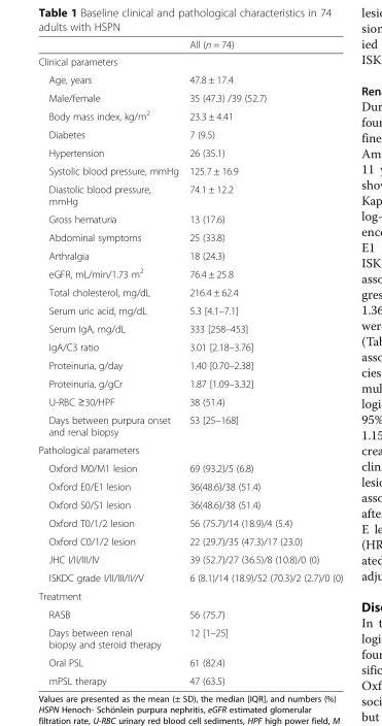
<table><thead><tr><td></td><td>All (n = 74)</td></tr></thead><tbody><tr><td colspan="2">Clinical parameters</td></tr><tr><td>Age, years</td><td>47.8 ± 17.4</td></tr><tr><td>Male/female</td><td>35 (47.3) /39 (52.7)</td></tr><tr><td>Body mass index, kg/m<sup>2</sup></td><td>23.3 ± 4.41</td></tr><tr><td>Diabetes</td><td>7 (9.5)</td></tr><tr><td>Hypertension</td><td>26 (35.1)</td></tr><tr><td>Systolic blood pressure, mmHg</td><td>125.7 ± 16.9</td></tr><tr><td>Diastolic blood pressure, mmHg</td><td>74.1 ± 12.2</td></tr><tr><td>Gross hematuria</td><td>13 (17.6)</td></tr><tr><td>Abdominal symptoms</td><td>25 (33.8)</td></tr><tr><td>Arthralgia</td><td>18 (24.3)</td></tr><tr><td>eGFR, mL/min/1.73 m<sup>2</sup></td><td>76.4 ± 25.8</td></tr><tr><td>Total cholesterol, mg/dL</td><td>216.4 ± 62.4</td></tr><tr><td>Serum uric acid, mg/dL</td><td>5.3 [4.1–7.1]</td></tr><tr><td>Serum IgA, mg/dL</td><td>333 [258–453]</td></tr><tr><td>IgA/C3 ratio</td><td>3.01 [2.18–3.76]</td></tr><tr><td>Proteinuria, g/day</td><td>1.40 [0.70–2.38]</td></tr><tr><td>Proteinuria, g/gCr</td><td>1.87 [1.09–3.32]</td></tr><tr><td>U-RBC ≥30/HPF</td><td>38 (51.4)</td></tr><tr><td>Days between purpura onset and renal biopsy</td><td>53 [25–168]</td></tr><tr><td colspan="2">Pathological parameters</td></tr><tr><td>Oxford M0/M1 lesion</td><td>69 (93.2)/5 (6.8)</td></tr><tr><td>Oxford E0/E1 lesion</td><td>36(48.6)/38 (51.4)</td></tr><tr><td>Oxford S0/S1 lesion</td><td>36(48.6)/38 (51.4)</td></tr><tr><td>Oxford T0/1/2 lesion</td><td>56 (75.7)/14 (18.9)/4 (5.4)</td></tr><tr><td>Oxford C0/1/2 lesion</td><td>22 (29.7)/35 (47.3)/17 (23.0)</td></tr><tr><td>JHC I/II/III/IV</td><td>39 (52.7)/27 (36.5)/8 (10.8)/0 (0)</td></tr><tr><td>ISKDC grade I/II/III/IV/V</td><td>6 (8.1)/14 (18.9)/52 (70.3)/2 (2.7)/0 (0)</td></tr><tr><td colspan="2">Treatment</td></tr><tr><td>RASB</td><td>56 (75.7)</td></tr><tr><td>Days between renal biopsy and steroid therapy</td><td>12 [1–25]</td></tr><tr><td>Oral PSL</td><td>61 (82.4)</td></tr><tr><td>mPSL therapy</td><td>47 (63.5)</td></tr></tbody></table>